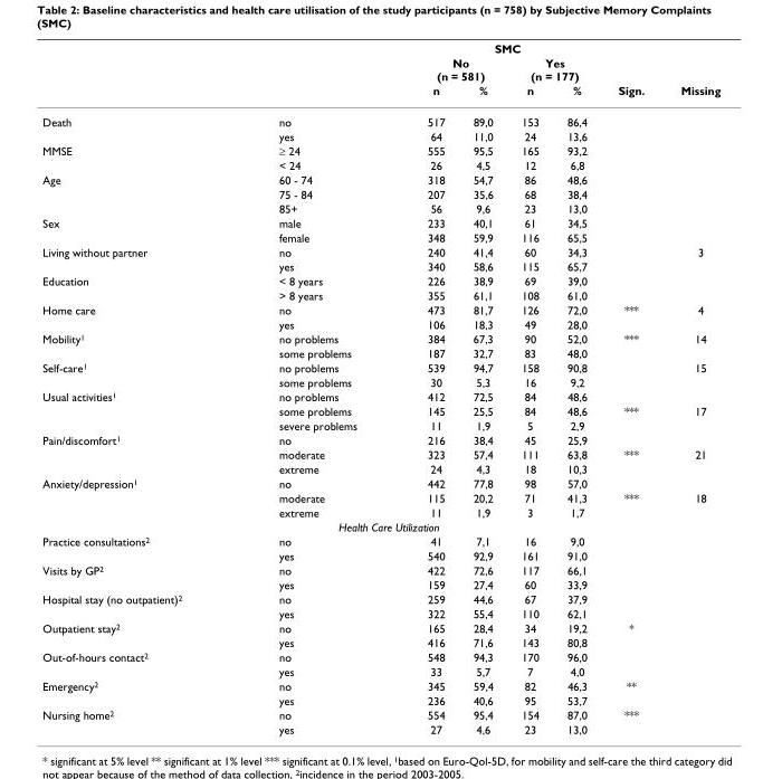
<table><thead><tr><td rowspan="3"></td><td rowspan="3"></td><td colspan="4">SMC</td><td rowspan="3">Sign.</td><td rowspan="3">Missing</td></tr><tr><td colspan="2">No (n = 581)</td><td colspan="2">Yes (n = 177)</td></tr><tr><td>n</td><td>%</td><td>n</td><td>%</td></tr></thead><tbody><tr><td rowspan="2">Death</td><td>no</td><td>517</td><td>89,0</td><td>153</td><td>86,4</td><td></td><td></td></tr><tr><td>yes</td><td>64</td><td>11,0</td><td>24</td><td>13,6</td><td></td><td></td></tr><tr><td rowspan="2">MMSE</td><td>≥ 24</td><td>555</td><td>95,5</td><td>165</td><td>93,2</td><td></td><td></td></tr><tr><td>&lt; 24</td><td>26</td><td>4,5</td><td>12</td><td>6,8</td><td></td><td></td></tr><tr><td rowspan="3">Age</td><td>60 - 74</td><td>318</td><td>54,7</td><td>86</td><td>48,6</td><td></td><td></td></tr><tr><td>75 - 84</td><td>207</td><td>35,6</td><td>68</td><td>38,4</td><td></td><td></td></tr><tr><td>85+</td><td>56</td><td>9,6</td><td>23</td><td>13,0</td><td></td><td></td></tr><tr><td rowspan="2">Sex</td><td>male</td><td>233</td><td>40,1</td><td>61</td><td>34,5</td><td></td><td></td></tr><tr><td>female</td><td>348</td><td>59,9</td><td>116</td><td>65,5</td><td></td><td></td></tr><tr><td rowspan="2">Living without partner</td><td>no</td><td>240</td><td>41,4</td><td>60</td><td>34,3</td><td></td><td>3</td></tr><tr><td>yes</td><td>340</td><td>58,6</td><td>115</td><td>65,7</td><td></td><td></td></tr><tr><td rowspan="2">Education</td><td>&lt; 8 years</td><td>226</td><td>38,9</td><td>69</td><td>39,0</td><td></td><td></td></tr><tr><td>&gt; 8 years</td><td>355</td><td>61,1</td><td>108</td><td>61,0</td><td></td><td></td></tr><tr><td rowspan="2">Home care</td><td>no</td><td>473</td><td>81,7</td><td>126</td><td>72,0</td><td>***</td><td>4</td></tr><tr><td>yes</td><td>106</td><td>18,3</td><td>49</td><td>28,0</td><td></td><td></td></tr><tr><td rowspan="2">Mobility<sup>1</sup></td><td>no problems</td><td>384</td><td>67,3</td><td>90</td><td>52,0</td><td>***</td><td>14</td></tr><tr><td>some problems</td><td>187</td><td>32,7</td><td>83</td><td>48,0</td><td></td><td></td></tr><tr><td rowspan="2">Self-care<sup>1</sup></td><td>no problems</td><td>539</td><td>94,7</td><td>158</td><td>90,8</td><td></td><td>15</td></tr><tr><td>some problems</td><td>30</td><td>5,3</td><td>16</td><td>9,2</td><td></td><td></td></tr><tr><td rowspan="3">Usual activities<sup>1</sup></td><td>no problems</td><td>412</td><td>72,5</td><td>84</td><td>48,6</td><td></td><td></td></tr><tr><td>some problems</td><td>145</td><td>25,5</td><td>84</td><td>48,6</td><td>***</td><td>17</td></tr><tr><td>severe problems</td><td>11</td><td>1,9</td><td>5</td><td>2,9</td><td></td><td></td></tr><tr><td rowspan="3">Pain/discomfort<sup>1</sup></td><td>no</td><td>216</td><td>38,4</td><td>45</td><td>25,9</td><td></td><td></td></tr><tr><td>moderate</td><td>323</td><td>57,4</td><td>111</td><td>63,8</td><td>***</td><td>21</td></tr><tr><td>extreme</td><td>24</td><td>4,3</td><td>18</td><td>10,3</td><td></td><td></td></tr><tr><td rowspan="3">Anxiety/depression<sup>1</sup></td><td>no</td><td>442</td><td>77,8</td><td>98</td><td>57,0</td><td></td><td></td></tr><tr><td>moderate</td><td>115</td><td>20,2</td><td>71</td><td>41,3</td><td>***</td><td>18</td></tr><tr><td>extreme</td><td>11</td><td>1,9</td><td>3</td><td>1,7</td><td></td><td></td></tr><tr><td colspan="8">Health Care Utilization</td></tr><tr><td rowspan="2">Practice consultations<sup>2</sup></td><td>no</td><td>41</td><td>7,1</td><td>16</td><td>9,0</td><td></td><td></td></tr><tr><td>yes</td><td>540</td><td>92,9</td><td>161</td><td>91,0</td><td></td><td></td></tr><tr><td rowspan="2">Visits by GP<sup>2</sup></td><td>no</td><td>422</td><td>72,6</td><td>117</td><td>66,1</td><td></td><td></td></tr><tr><td>yes</td><td>159</td><td>27,4</td><td>60</td><td>33,9</td><td></td><td></td></tr><tr><td rowspan="2">Hospital stay (no outpatient)<sup>2</sup></td><td>no</td><td>259</td><td>44,6</td><td>67</td><td>37,9</td><td></td><td></td></tr><tr><td>yes</td><td>322</td><td>55,4</td><td>110</td><td>62,1</td><td></td><td></td></tr><tr><td rowspan="2">Outpatient stay<sup>2</sup></td><td>no</td><td>165</td><td>28,4</td><td>34</td><td>19,2</td><td>*</td><td></td></tr><tr><td>yes</td><td>416</td><td>71,6</td><td>143</td><td>80,8</td><td></td><td></td></tr><tr><td rowspan="2">Out-of-hours contact<sup>2</sup></td><td>no</td><td>548</td><td>94,3</td><td>170</td><td>96,0</td><td></td><td></td></tr><tr><td>yes</td><td>33</td><td>5,7</td><td>7</td><td>4,0</td><td></td><td></td></tr><tr><td rowspan="2">Emergency<sup>2</sup></td><td>no</td><td>345</td><td>59,4</td><td>82</td><td>46,3</td><td>**</td><td></td></tr><tr><td>yes</td><td>236</td><td>40,6</td><td>95</td><td>53,7</td><td></td><td></td></tr><tr><td rowspan="2">Nursing home<sup>2</sup></td><td>no</td><td>554</td><td>95,4</td><td>154</td><td>87,0</td><td>***</td><td></td></tr><tr><td>yes</td><td>27</td><td>4,6</td><td>23</td><td>13,0</td><td></td><td></td></tr></tbody></table>